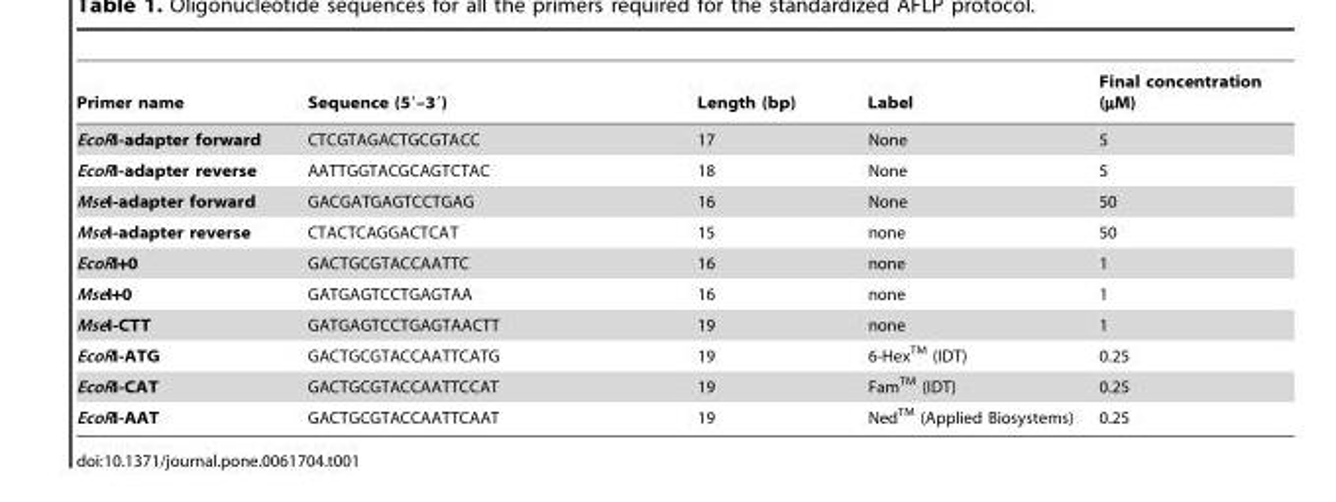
<table><thead><tr><td>Primer name</td><td>Sequence (5′–3′)</td><td>Length (bp)</td><td>Label</td><td>Final concentration (µM)</td></tr></thead><tbody><tr><td>EcoRI-adapter forward</td><td>CTCGTAGACTGCGTACC</td><td>17</td><td>None</td><td>5</td></tr><tr><td>EcoRI-adapter reverse</td><td>AATTGGTACGCAGTCTAC</td><td>18</td><td>None</td><td>5</td></tr><tr><td>MseI-adapter forward</td><td>GACGATGAGTCCTGAG</td><td>16</td><td>None</td><td>50</td></tr><tr><td>MseI-adapter reverse</td><td>CTACTCAGGACTCAT</td><td>15</td><td>none</td><td>50</td></tr><tr><td>EcoRI+0</td><td>GACTGCGTACCAATTC</td><td>16</td><td>none</td><td>1</td></tr><tr><td>MseI+0</td><td>GATGAGTCCTGAGTAA</td><td>16</td><td>none</td><td>1</td></tr><tr><td>MseI-CTT</td><td>GATGAGTCCTGAGTAACTT</td><td>19</td><td>none</td><td>1</td></tr><tr><td>EcoRI-ATG</td><td>GACTGCGTACCAATTCATG</td><td>19</td><td>6-HexTM (IDT)</td><td>0.25</td></tr><tr><td>EcoRI-CAT</td><td>GACTGCGTACCAATTCCAT</td><td>19</td><td>FamTM (IDT)</td><td>0.25</td></tr><tr><td>EcoRI-AAT</td><td>GACTGCGTACCAATTCAAT</td><td>19</td><td>NedTM (Applied Biosystems)</td><td>0.25</td></tr></tbody></table>